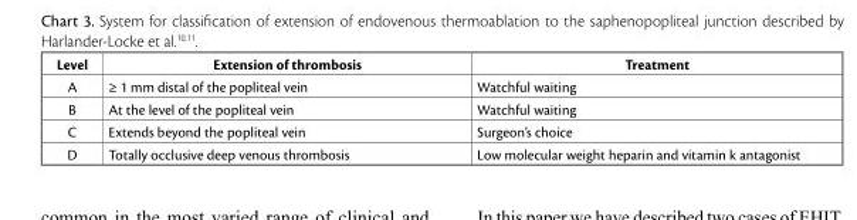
<table><thead><tr><td>Level</td><td>Extension of thrombosis</td><td>Treatment</td></tr></thead><tbody><tr><td>A</td><td>≥ 1 mm distal of the popliteal vein</td><td>Watchful waiting</td></tr><tr><td>B</td><td>At the level of the popliteal vein</td><td>Watchful waiting</td></tr><tr><td>C</td><td>Extends beyond the popliteal vein</td><td>Surgeon’s choice</td></tr><tr><td>D</td><td>Totally occlusive deep venous thrombosis</td><td>Low molecular weight heparin and vitamin k antagonist</td></tr></tbody></table>